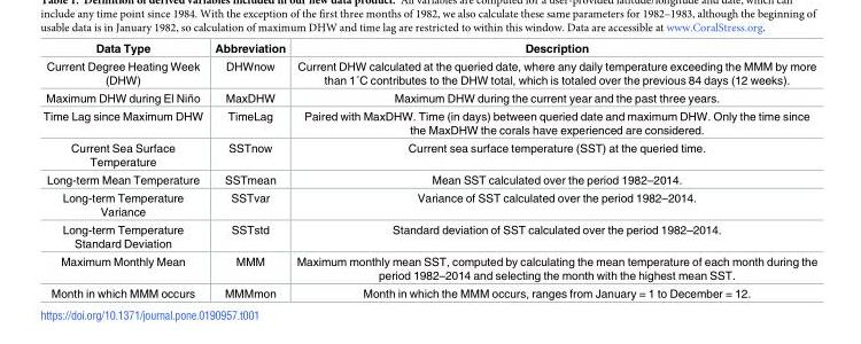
<table><thead><tr><td>Data Type</td><td>Abbreviation</td><td>Description</td></tr></thead><tbody><tr><td>Current Degree Heating Week (DHW)</td><td>DHWnow</td><td>Current DHW calculated at the queried date, where any daily temperature exceeding the MMM by more than 1˚C contributes to the DHW total, which is totaled over the previous 84 days (12 weeks).</td></tr><tr><td>Maximum DHW during El Niño</td><td>MaxDHW</td><td>Maximum DHW during the current year and the past three years.</td></tr><tr><td>Time Lag since Maximum DHW</td><td>TimeLag</td><td>Paired with MaxDHW. Time (in days) between queried date and maximum DHW. Only the time since the MaxDHW the corals have experienced are considered.</td></tr><tr><td>Current Sea Surface Temperature</td><td>SSTnow</td><td>Current sea surface temperature (SST) at the queried time.</td></tr><tr><td>Long-term Mean Temperature</td><td>SSTmean</td><td>Mean SST calculated over the period 1982–2014.</td></tr><tr><td>Long-term Temperature Variance</td><td>SSTvar</td><td>Variance of SST calculated over the period 1982–2014.</td></tr><tr><td>Long-term Temperature Standard Deviation</td><td>SSTstd</td><td>Standard deviation of SST calculated over the period 1982–2014.</td></tr><tr><td>Maximum Monthly Mean</td><td>MMM</td><td>Maximum monthly mean SST, computed by calculating the mean temperature of each month during the period 1982–2014 and selecting the month with the highest mean SST.</td></tr><tr><td>Month in which MMM occurs</td><td>MMMmon</td><td>Month in which the MMM occurs, ranges from January = 1 to December = 12.</td></tr></tbody></table>